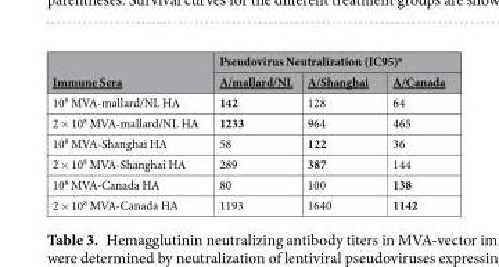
<table><thead><tr><td rowspan="2">Immune Sera</td><td colspan="3">Pseudovirus Neutralization (IC95)<sup>a</sup></td></tr><tr><td>A/mallard/NL</td><td>A/Shanghai</td><td>A/Canada</td></tr></thead><tbody><tr><td>10<sup>8</sup> MVA-mallard/NL HA</td><td>142</td><td>128</td><td>64</td></tr><tr><td>2 × 10<sup>8</sup> MVA-mallard/NL HA</td><td>1233</td><td>964</td><td>465</td></tr><tr><td>10<sup>8</sup> MVA-Shanghai HA</td><td>58</td><td>122</td><td>36</td></tr><tr><td>2 × 10<sup>8</sup> MVA-Shanghai HA</td><td>289</td><td>387</td><td>144</td></tr><tr><td>10<sup>8</sup> MVA-Canada HA</td><td>80</td><td>100</td><td>138</td></tr><tr><td>2 × 10<sup>8</sup> MVA-Canada HA</td><td>1193</td><td>1640</td><td>1142</td></tr></tbody></table>